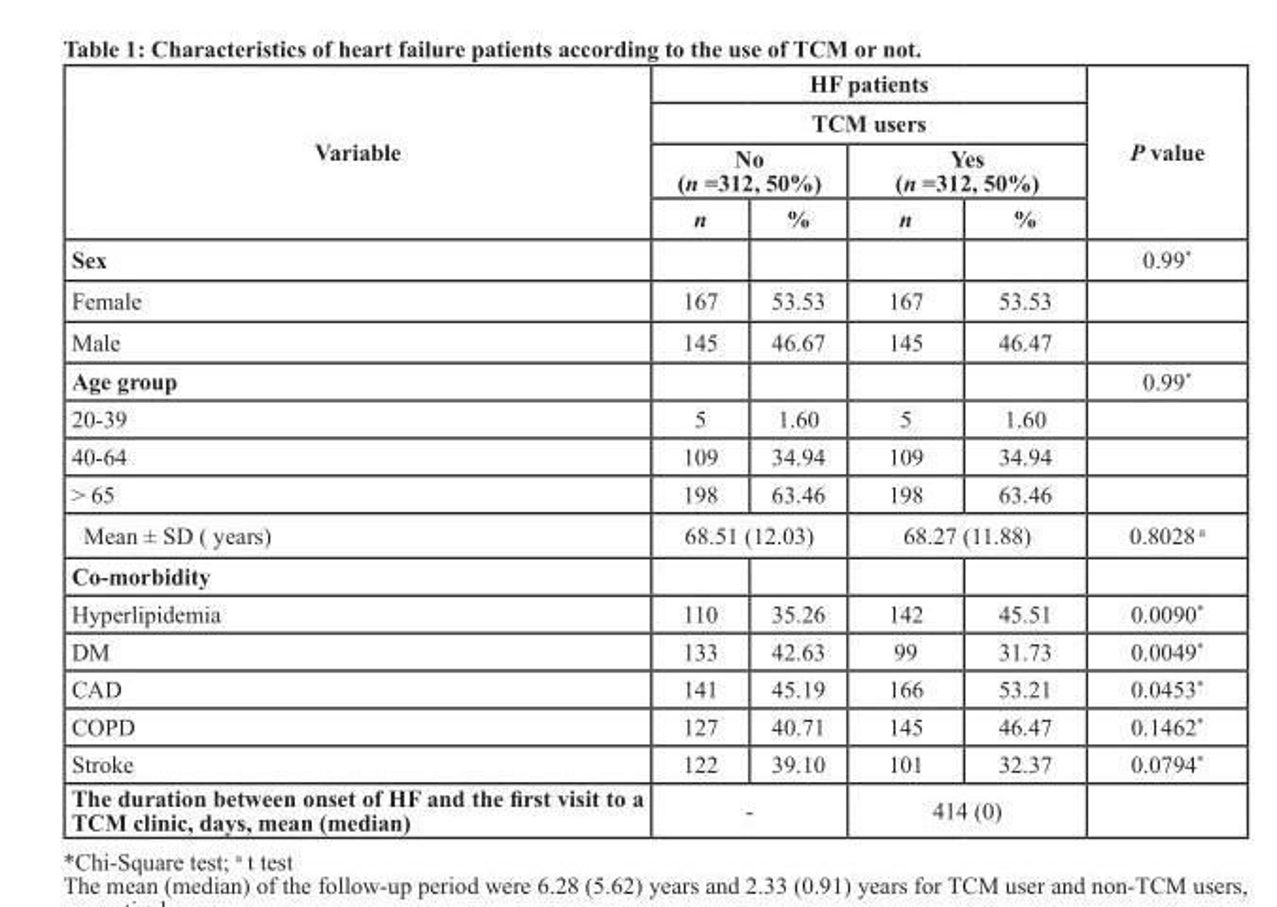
<table><thead><tr><td rowspan="4">Variable</td><td rowspan="2" colspan="4">HF patients TCM users</td><td rowspan="4">P value</td></tr><tr></tr><tr><td colspan="2">No (n =312, 50%)</td><td colspan="2">Yes (n =312, 50%)</td></tr><tr><td>n</td><td>%</td><td>n</td><td>%</td></tr></thead><tbody><tr><td>Sex</td><td></td><td></td><td></td><td></td><td>0.99*</td></tr><tr><td>Female</td><td>167</td><td>53.53</td><td>167</td><td>53.53</td><td></td></tr><tr><td>Male</td><td>145</td><td>46.67</td><td>145</td><td>46.47</td><td></td></tr><tr><td>Age group</td><td></td><td></td><td></td><td></td><td>0.99*</td></tr><tr><td>20-39</td><td>5</td><td>1.60</td><td>5</td><td>1.60</td><td></td></tr><tr><td>40-64</td><td>109</td><td>34.94</td><td>109</td><td>34.94</td><td></td></tr><tr><td>&gt; 65</td><td>198</td><td>63.46</td><td>198</td><td>63.46</td><td></td></tr><tr><td>Mean ± SD ( years)</td><td colspan="2">68.51 (12.03)</td><td colspan="2">68.27 (11.88)</td><td>0.8028 <sup>a</sup></td></tr><tr><td colspan="6">Co-morbidity</td></tr><tr><td>Hyperlipidemia</td><td>110</td><td>35.26</td><td>142</td><td>45.51</td><td>0.0090*</td></tr><tr><td>DM</td><td>133</td><td>42.63</td><td>99</td><td>31.73</td><td>0.0049*</td></tr><tr><td>CAD</td><td>141</td><td>45.19</td><td>166</td><td>53.21</td><td>0.0453*</td></tr><tr><td>COPD</td><td>127</td><td>40.71</td><td>145</td><td>46.47</td><td>0.1462*</td></tr><tr><td>Stroke</td><td>122</td><td>39.10</td><td>101</td><td>32.37</td><td>0.0794*</td></tr><tr><td>The duration between onset of HF and the first visit to a TCM clinic, days, mean (median)</td><td colspan="2">-</td><td colspan="2">414 (0)</td><td></td></tr></tbody></table>